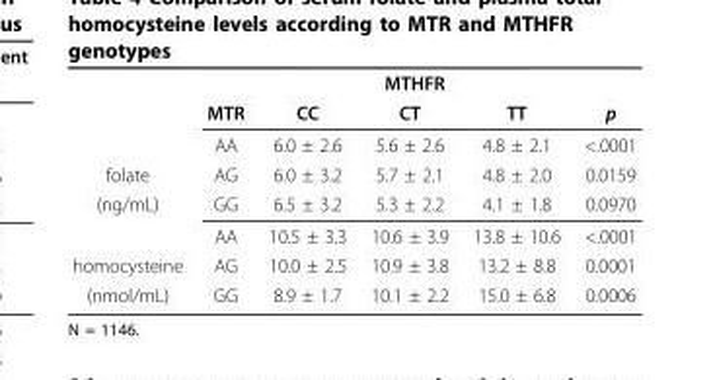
<table><thead><tr><td rowspan="2"></td><td rowspan="2">MTR</td><td colspan="3">MTHFR</td><td rowspan="2">p</td></tr><tr><td>CC</td><td>CT</td><td>TT</td></tr></thead><tbody><tr><td></td><td>AA</td><td>6.0 ± 2.6</td><td>5.6 ± 2.6</td><td>4.8 ± 2.1</td><td>&lt;.0001</td></tr><tr><td>folate</td><td>AG</td><td>6.0 ± 3.2</td><td>5.7 ± 2.1</td><td>4.8 ± 2.0</td><td>0.0159</td></tr><tr><td rowspan="2">(ng/mL)</td><td>GG</td><td>6.5 ± 3.2</td><td>5.3 ± 2.2</td><td>4.1 ± 1.8</td><td>0.0970</td></tr><tr><td>AA</td><td>10.5 ± 3.3</td><td>10.6 ± 3.9</td><td>13.8 ± 10.6</td><td>&lt;.0001</td></tr><tr><td>homocysteine</td><td>AG</td><td>10.0 ± 2.5</td><td>10.9 ± 3.8</td><td>13.2 ± 8.8</td><td>0.0001</td></tr><tr><td>(nmol/mL)</td><td>GG</td><td>8.9 ± 1.7</td><td>10.1 ± 2.2</td><td>15.0 ± 6.8</td><td>0.0006</td></tr></tbody></table>